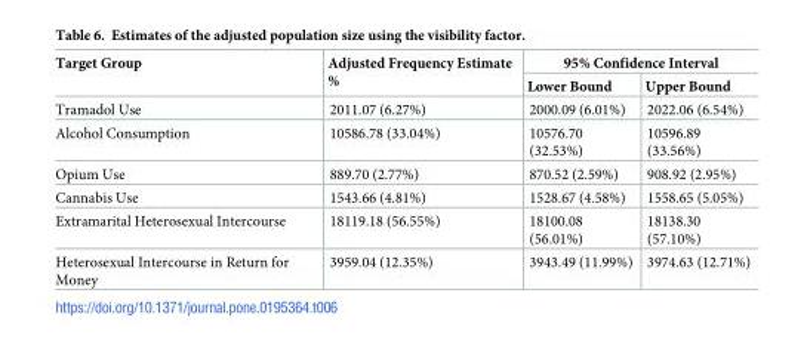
<table><thead><tr><td rowspan="2">Target Group</td><td rowspan="2">Adjusted Frequency Estimate %</td><td colspan="2">95% Confidence Interval</td></tr><tr><td>Lower Bound</td><td>Upper Bound</td></tr></thead><tbody><tr><td>Tramadol Use</td><td>2011.07 (6.27%)</td><td>2000.09 (6.01%)</td><td>2022.06 (6.54%)</td></tr><tr><td>Alcohol Consumption</td><td>10586.78 (33.04%)</td><td>10576.70 (32.53%)</td><td>10596.89 (33.56%)</td></tr><tr><td>Opium Use</td><td>889.70 (2.77%)</td><td>870.52 (2.59%)</td><td>908.92 (2.95%)</td></tr><tr><td>Cannabis Use</td><td>1543.66 (4.81%)</td><td>1528.67 (4.58%)</td><td>1558.65 (5.05%)</td></tr><tr><td>Extramarital Heterosexual Intercourse</td><td>18119.18 (56.55%)</td><td>18100.08 (56.01%)</td><td>18138.30 (57.10%)</td></tr><tr><td>Heterosexual Intercourse in Return for Money</td><td>3959.04 (12.35%)</td><td>3943.49 (11.99%)</td><td>3974.63 (12.71%)</td></tr></tbody></table>